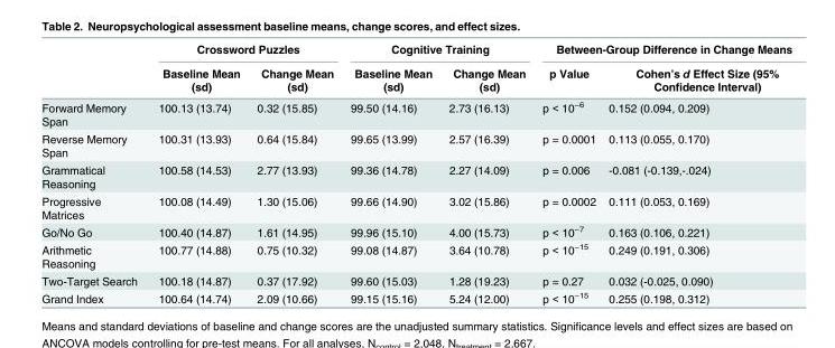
<table><thead><tr><td rowspan="2"></td><td colspan="2">Crossword Puzzles</td><td colspan="2">Cognitive Training</td><td colspan="2">Between-Group Difference in Change Means</td></tr><tr><td>Baseline Mean (sd)</td><td>Change Mean (sd)</td><td>Baseline Mean (sd)</td><td>Change Mean (sd)</td><td>p Value</td><td>Cohen’s d Effect Size (95% Confidence Interval)</td></tr></thead><tbody><tr><td>Forward Memory Span</td><td>100.13 (13.74)</td><td>0.32 (15.85)</td><td>99.50 (14.16)</td><td>2.73 (16.13)</td><td>p &lt; 10<sup>−6</sup></td><td>0.152 (0.094, 0.209)</td></tr><tr><td>Reverse Memory Span</td><td>100.31 (13.93)</td><td>0.64 (15.84)</td><td>99.65 (13.99)</td><td>2.57 (16.39)</td><td>p = 0.0001</td><td>0.113 (0.055, 0.170)</td></tr><tr><td>Grammatical Reasoning</td><td>100.58 (14.53)</td><td>2.77 (13.93)</td><td>99.36 (14.78)</td><td>2.27 (14.09)</td><td>p = 0.006</td><td>-0.081 (-0.139,-.024)</td></tr><tr><td>Progressive Matrices</td><td>100.08 (14.49)</td><td>1.30 (15.06)</td><td>99.66 (14.90)</td><td>3.02 (15.86)</td><td>p = 0.0002</td><td>0.111 (0.053, 0.169)</td></tr><tr><td>Go/No Go</td><td>100.40 (14.87)</td><td>1.61 (14.95)</td><td>99.96 (15.10)</td><td>4.00 (15.73)</td><td>p &lt; 10<sup>−7</sup></td><td>0.163 (0.106, 0.221)</td></tr><tr><td>Arithmetic Reasoning</td><td>100.77 (14.88)</td><td>0.75 (10.32)</td><td>99.08 (14.87)</td><td>3.64 (10.78)</td><td>p &lt; 10<sup>−15</sup></td><td>0.249 (0.191, 0.306)</td></tr><tr><td>Two-Target Search</td><td>100.18 (14.87)</td><td>0.37 (17.92)</td><td>99.60 (15.03)</td><td>1.28 (19.23)</td><td>p = 0.27</td><td>0.032 (-0.025, 0.090)</td></tr><tr><td>Grand Index</td><td>100.64 (14.74)</td><td>2.09 (10.66)</td><td>99.15 (15.16)</td><td>5.24 (12.00)</td><td>p &lt; 10<sup>−15</sup></td><td>0.255 (0.198, 0.312)</td></tr></tbody></table>